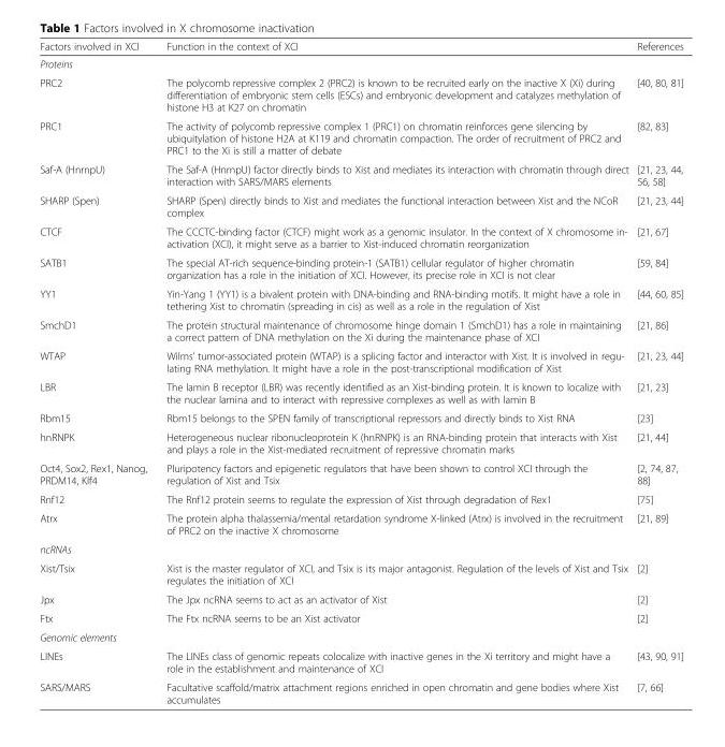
<table><thead><tr><td>Factors involved in XCI</td><td>Function in the context of XCI</td><td>References</td></tr></thead><tbody><tr><td colspan="3">Proteins</td></tr><tr><td>PRC2</td><td>The polycomb repressive complex 2 (PRC2) is known to be recruited early on the inactive X (Xi) during differentiation of embryonic stem cells (ESCs) and embryonic development and catalyzes methylation of histone H3 at K27 on chromatin</td><td>[40, 80, 81]</td></tr><tr><td>PRC1</td><td>The activity of polycomb repressive complex 1 (PRC1) on chromatin reinforces gene silencing by ubiquitylation of histone H2A at K119 and chromatin compaction. The order of recruitment of PRC2 and PRC1 to the Xi is still a matter of debate</td><td>[82, 83]</td></tr><tr><td>Saf-A (HnrnpU)</td><td>The Saf-A (HnrnpU) factor directly binds to Xist and mediates its interaction with chromatin through direct interaction with SARS/MARS elements</td><td>[21, 23, 44, 56, 58]</td></tr><tr><td>SHARP (Spen)</td><td>SHARP (Spen) directly binds to Xist and mediates the functional interaction between Xist and the NCoR complex</td><td>[21, 23, 44]</td></tr><tr><td>CTCF</td><td>The CCCTC-binding factor (CTCF) might work as a genomic insulator. In the context of X chromosome in- activation (XCI), it might serve as a barrier to Xist-induced chromatin reorganization</td><td>[21, 67]</td></tr><tr><td>SATB1</td><td>The special AT-rich sequence-binding protein-1 (SATB1) cellular regulator of higher chromatin organization has a role in the initiation of XCI. However, its precise role in XCI is not clear</td><td>[59, 84]</td></tr><tr><td>YY1</td><td>Yin-Yang 1 (YY1) is a bivalent protein with DNA-binding and RNA-binding motifs. It might have a role in tethering Xist to chromatin (spreading in cis) as well as a role in the regulation of Xist</td><td>[44, 60, 85]</td></tr><tr><td>SmchD1</td><td>The protein structural maintenance of chromosome hinge domain 1 (SmchD1) has a role in maintaining a correct pattern of DNA methylation on the Xi during the maintenance phase of XCI</td><td>[21, 86]</td></tr><tr><td>WTAP</td><td>Wilms’ tumor-associated protein (WTAP) is a splicing factor and interactor with Xist. It is involved in regu- lating RNA methylation. It might have a role in the post-transcriptional modification of Xist</td><td>[21, 23, 44]</td></tr><tr><td>LBR</td><td>The lamin B receptor (LBR) was recently identified as an Xist-binding protein. It is known to localize with the nuclear lamina and to interact with repressive complexes as well as with lamin B</td><td>[21, 23]</td></tr><tr><td>Rbm15</td><td>Rbm15 belongs to the SPEN family of transcriptional repressors and directly binds to Xist RNA</td><td>[23]</td></tr><tr><td>hnRNPK</td><td>Heterogeneous nuclear ribonucleoprotein K (hnRNPK) is an RNA-binding protein that interacts with Xist and plays a role in the Xist-mediated recruitment of repressive chromatin marks</td><td>[21, 44]</td></tr><tr><td>Oct4, Sox2, Rex1, Nanog, PRDM14, Klf4</td><td>Pluripotency factors and epigenetic regulators that have been shown to control XCI through the regulation of Xist and Tsix</td><td>[2, 74, 87, 88]</td></tr><tr><td>Rnf12</td><td>The Rnf12 protein seems to regulate the expression of Xist through degradation of Rex1</td><td>[75]</td></tr><tr><td>Atrx</td><td>The protein alpha thalassemia/mental retardation syndrome X-linked (Atrx) is involved in the recruitment of PRC2 on the inactive X chromosome</td><td>[21, 89]</td></tr><tr><td colspan="3">ncRNAs</td></tr><tr><td>Xist/Tsix</td><td>Xist is the master regulator of XCI, and Tsix is its major antagonist. Regulation of the levels of Xist and Tsix regulates the initiation of XCI</td><td>[2]</td></tr><tr><td>Jpx</td><td>The Jpx ncRNA seems to act as an activator of Xist</td><td>[2]</td></tr><tr><td>Ftx</td><td>The Ftx ncRNA seems to be an Xist activator</td><td>[2]</td></tr><tr><td colspan="3">Genomic elements</td></tr><tr><td>LINEs</td><td>The LINEs class of genomic repeats colocalize with inactive genes in the Xi territory and might have a role in the establishment and maintenance of XCI</td><td>[43, 90, 91]</td></tr><tr><td>SARS/MARS</td><td>Facultative scaffold/matrix attachment regions enriched in open chromatin and gene bodies where Xist accumulates</td><td>[7, 66]</td></tr></tbody></table>